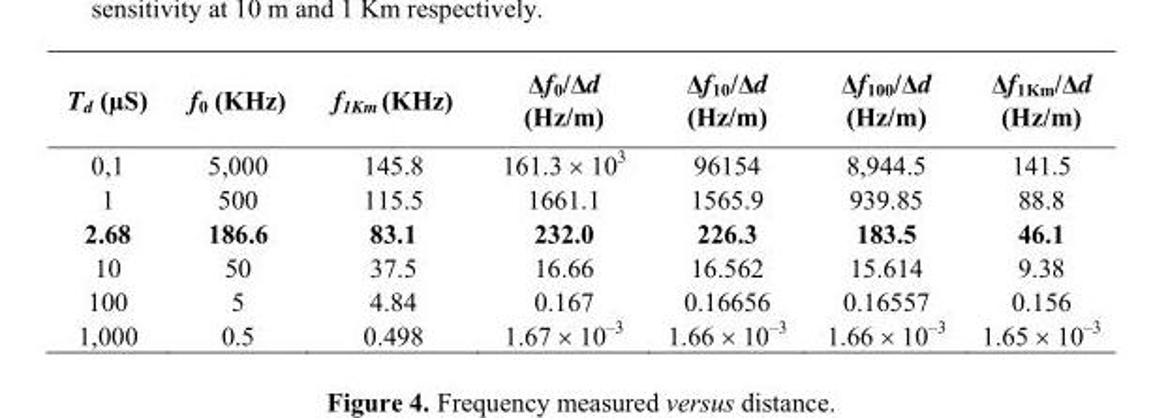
<table><thead><tr><td>T<sub>d</sub> (µS)</td><td>f<sub>0</sub> (KHz)</td><td>f<sub>1Km</sub> (KHz)</td><td>Δf<sub>0</sub>/Δd (Hz/m)</td><td>Δf<sub>10</sub>/Δd (Hz/m)</td><td>Δf<sub>100</sub>/Δd (Hz/m)</td><td>Δf<sub>1Km</sub>/Δd (Hz/m)</td></tr></thead><tbody><tr><td>0,1</td><td>5,000</td><td>145.8</td><td>161.3 × 10<sup>3</sup></td><td>96154</td><td>8,944.5</td><td>141.5</td></tr><tr><td>1</td><td>500</td><td>115.5</td><td>1661.1</td><td>1565.9</td><td>939.85</td><td>88.8</td></tr><tr><td>2.68</td><td>186.6</td><td>83.1</td><td>232.0</td><td>226.3</td><td>183.5</td><td>46.1</td></tr><tr><td>10</td><td>50</td><td>37.5</td><td>16.66</td><td>16.562</td><td>15.614</td><td>9.38</td></tr><tr><td>100</td><td>5</td><td>4.84</td><td>0.167</td><td>0.16656</td><td>0.16557</td><td>0.156</td></tr><tr><td>1,000</td><td>0.5</td><td>0.498</td><td>1.67 × 10<sup>–3</sup></td><td>1.66 × 10<sup>–3</sup></td><td>1.66 × 10<sup>–3</sup></td><td>1.65 × 10<sup>–3</sup></td></tr></tbody></table>